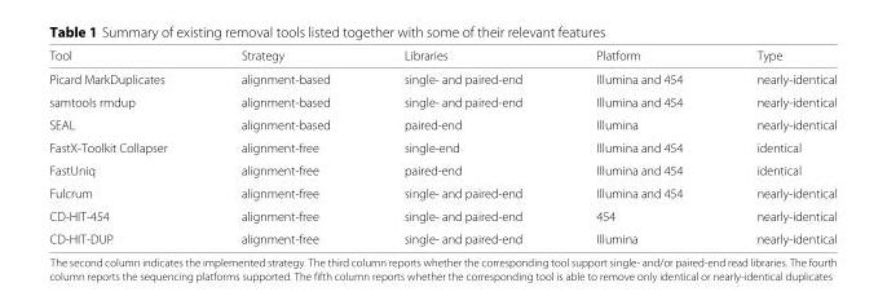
<table><thead><tr><td>Tool</td><td>Strategy</td><td>Libraries</td><td>Platform</td><td>Type</td></tr></thead><tbody><tr><td>Picard MarkDuplicates</td><td>alignment-based</td><td>single- and paired-end</td><td>Illumina and 454</td><td>nearly-identical</td></tr><tr><td>samtools rmdup</td><td>alignment-based</td><td>single- and paired-end</td><td>Illumina and 454</td><td>nearly-identical</td></tr><tr><td>SEAL</td><td>alignment-based</td><td>paired-end</td><td>Illumina</td><td>nearly-identical</td></tr><tr><td>FastX-Toolkit Collapser</td><td>alignment-free</td><td>single-end</td><td>Illumina and 454</td><td>identical</td></tr><tr><td>FastUniq</td><td>alignment-free</td><td>paired-end</td><td>Illumina and 454</td><td>identical</td></tr><tr><td>Fulcrum</td><td>alignment-free</td><td>single- and paired-end</td><td>Illumina and 454</td><td>nearly-identical</td></tr><tr><td>CD-HIT-454</td><td>alignment-free</td><td>single- and paired-end</td><td>454</td><td>nearly-identical</td></tr><tr><td>CD-HIT-DUP</td><td>alignment-free</td><td>single- and paired-end</td><td>Illumina</td><td>nearly-identical</td></tr></tbody></table>